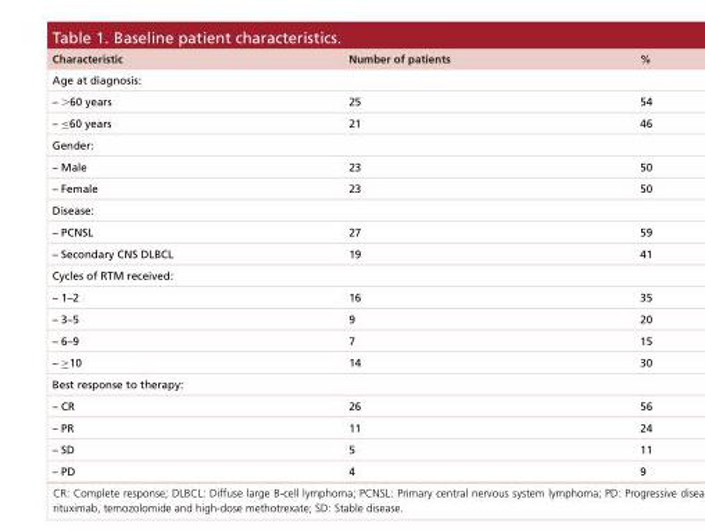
<table><thead><tr><td>Characteristic</td><td>Number of patients</td><td>%</td></tr></thead><tbody><tr><td colspan="3">Age at diagnosis:</td></tr><tr><td>– &gt;60 years</td><td>25</td><td>54</td></tr><tr><td>– ≤60 years</td><td>21</td><td>46</td></tr><tr><td colspan="3">Gender:</td></tr><tr><td>– Male</td><td>23</td><td>50</td></tr><tr><td>– Female</td><td>23</td><td>50</td></tr><tr><td colspan="3">Disease:</td></tr><tr><td>– PCNSL</td><td>27</td><td>59</td></tr><tr><td>– Secondary CNS DLBCL</td><td>19</td><td>41</td></tr><tr><td colspan="3">Cycles of RTM received:</td></tr><tr><td>– 1–2</td><td>16</td><td>35</td></tr><tr><td>– 3–5</td><td>9</td><td>20</td></tr><tr><td>– 6–9</td><td>7</td><td>15</td></tr><tr><td>– ≥10</td><td>14</td><td>30</td></tr><tr><td colspan="3">Best response to therapy:</td></tr><tr><td>– CR</td><td>26</td><td>56</td></tr><tr><td>– PR</td><td>11</td><td>24</td></tr><tr><td>– SD</td><td>5</td><td>11</td></tr><tr><td>– PD</td><td>4</td><td>9</td></tr></tbody></table>